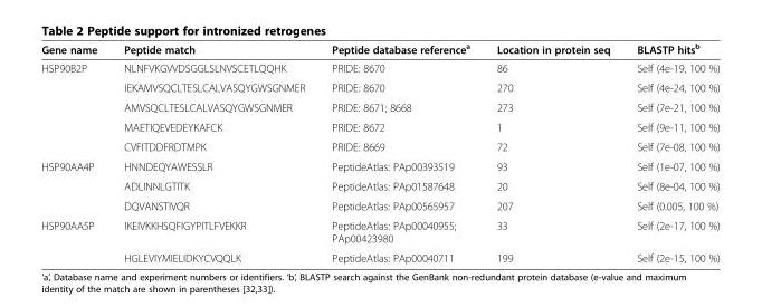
<table><thead><tr><td>Gene name</td><td>Peptide match</td><td>Peptide database reference<sup>a</sup></td><td>Location in protein seq</td><td>BLASTP hits<sup>b</sup></td></tr></thead><tbody><tr><td rowspan="5">HSP90B2P</td><td>NLNFVKGVVDSGGLSLNVSCETLQQHK</td><td>PRIDE: 8670</td><td>86</td><td>Self (4e-19, 100 %)</td></tr><tr><td>IEKAMVSQCLTESLCALVASQYGWSGNMER</td><td>PRIDE: 8670</td><td>270</td><td>Self (4e-24, 100 %)</td></tr><tr><td>AMVSQCLTESLCALVASQYGWSGNMER</td><td>PRIDE: 8671; 8668</td><td>273</td><td>Self (7e-21, 100 %)</td></tr><tr><td>MAETIQEVEDEYKAFCK</td><td>PRIDE: 8672</td><td>1</td><td>Self (9e-11, 100 %)</td></tr><tr><td>CVFITDDFRDTMPK</td><td>PRIDE: 8669</td><td>72</td><td>Self (7e-08, 100 %)</td></tr><tr><td rowspan="3">HSP90AA4P</td><td>HNNDEQYAWESSLR</td><td>PeptideAtlas: PAp00393519</td><td>93</td><td>Self (1e-07, 100 %)</td></tr><tr><td>ADLINNLGTITK</td><td>PeptideAtlas: PAp01587648</td><td>20</td><td>Self (8e-04, 100 %)</td></tr><tr><td>DQVANSTIVQR</td><td>PeptideAtlas: PAp00565957</td><td>207</td><td>Self (0.005, 100 %)</td></tr><tr><td rowspan="2">HSP90AA5P</td><td>IKEIVKKHSQFIGYPITLFVEKKR</td><td>PeptideAtlas: PAp00040955; PAp00423980</td><td>33</td><td>Self (2e-17, 100 %)</td></tr><tr><td>HGLEVIYMIELIDKYCVQQLK</td><td>PeptideAtlas: PAp00040711</td><td>199</td><td>Self (2e-15, 100 %)</td></tr></tbody></table>